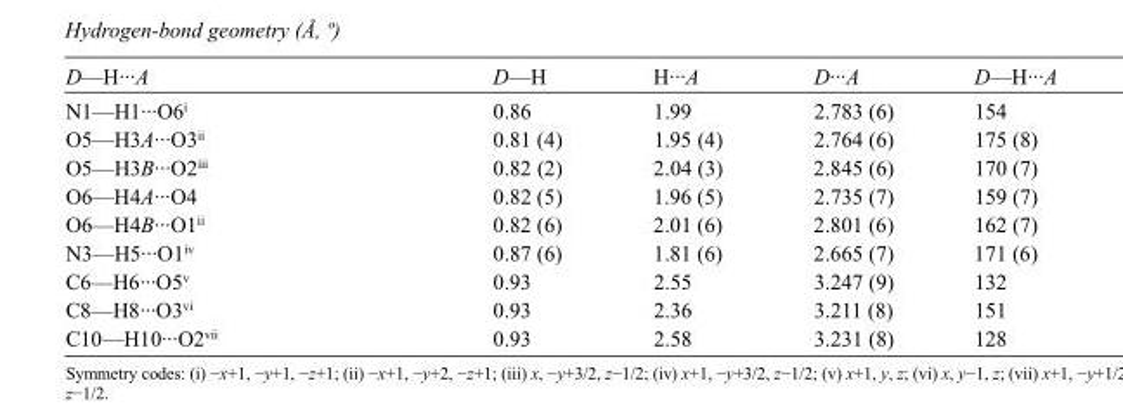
<table><tbody><tr><td>D—H···A</td><td>D—H</td><td>H···A</td><td>D···A</td><td>D—H···A</td></tr><tr><td>N1—H1···O6<sup>i</sup></td><td>0.86</td><td>1.99</td><td>2.783 (6)</td><td>154</td></tr><tr><td>O5—H3A···O3<sup>ii</sup></td><td>0.81 (4)</td><td>1.95 (4)</td><td>2.764 (6)</td><td>175 (8)</td></tr><tr><td>O5—H3B···O2<sup>iii</sup></td><td>0.82 (2)</td><td>2.04 (3)</td><td>2.845 (6)</td><td>170 (7)</td></tr><tr><td>O6—H4A···O4</td><td>0.82 (5)</td><td>1.96 (5)</td><td>2.735 (7)</td><td>159 (7)</td></tr><tr><td>O6—H4B···O1<sup>ii</sup></td><td>0.82 (6)</td><td>2.01 (6)</td><td>2.801 (6)</td><td>162 (7)</td></tr><tr><td>N3—H5···O1<sup>iv</sup></td><td>0.87 (6)</td><td>1.81 (6)</td><td>2.665 (7)</td><td>171 (6)</td></tr><tr><td>C6—H6···O5<sup>v</sup></td><td>0.93</td><td>2.55</td><td>3.247 (9)</td><td>132</td></tr><tr><td>C8—H8···O3<sup>vi</sup></td><td>0.93</td><td>2.36</td><td>3.211 (8)</td><td>151</td></tr><tr><td>C10—H10···O2<sup>vii</sup></td><td>0.93</td><td>2.58</td><td>3.231 (8)</td><td>128</td></tr></tbody></table>